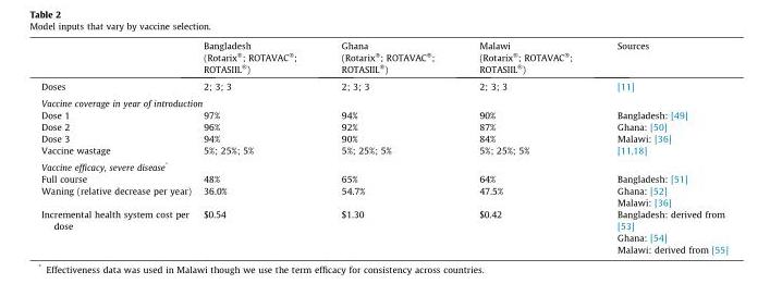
<table><thead><tr><td></td><td>Bangladesh (Rotarix®; ROTAVAC®; ROTASIIL®)</td><td>Ghana (Rotarix®; ROTAVAC®; ROTASIIL®)</td><td>Malawi (Rotarix®; ROTAVAC®; ROTASIIL®)</td><td>Sources</td></tr></thead><tbody><tr><td>Doses</td><td>2; 3; 3</td><td>2; 3; 3</td><td>2; 3; 3</td><td>[11]</td></tr><tr><td colspan="5">Vaccine coverage in year of introduction</td></tr><tr><td>Dose 1</td><td>97%</td><td>94%</td><td>90%</td><td rowspan="3">Bangladesh: [49] Ghana: [50] Malawi: [36]</td></tr><tr><td>Dose 2</td><td>96%</td><td>92%</td><td>87%</td></tr><tr><td>Dose 3</td><td>94%</td><td>90%</td><td>84%</td></tr><tr><td>Vaccine wastage</td><td>5%; 25%; 5%</td><td>5%; 25%; 5%</td><td>5%; 25%; 5%</td><td>[11,18]</td></tr><tr><td colspan="5">Vaccine efficacy, severe disease*</td></tr><tr><td>Full course</td><td>48%</td><td>65%</td><td>64%</td><td rowspan="2">Bangladesh: [51] Ghana: [52] Malawi: [36]</td></tr><tr><td>Waning (relative decrease per year)</td><td>36.0%</td><td>54.7%</td><td>47.5%</td></tr><tr><td>Incremental health system cost per dose</td><td>$0.54</td><td>$1.30</td><td>$0.42</td><td>Bangladesh: derived from [53] Ghana: [54] Malawi: derived from [55]</td></tr></tbody></table>